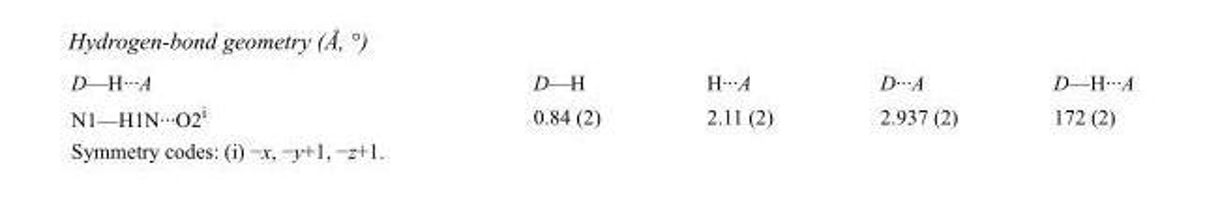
<table><tbody><tr><td>D—H···A</td><td>D—H</td><td>H···A</td><td>D···A</td><td>D—H···A</td></tr><tr><td>N1—H1N···O2<sup>i</sup></td><td>0.84 (2)</td><td>2.11 (2)</td><td>2.937 (2)</td><td>172 (2)</td></tr></tbody></table>